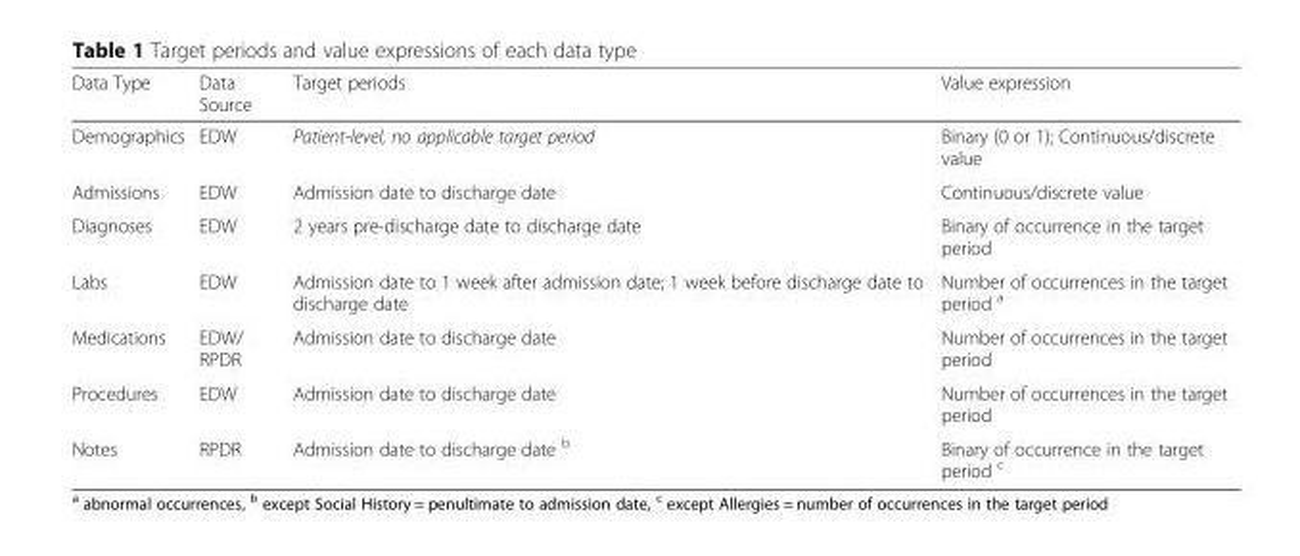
<table><thead><tr><td>Data Type</td><td>Data Source</td><td>Target periods</td><td>Value expression</td></tr></thead><tbody><tr><td>Demographics</td><td>EDW</td><td>Patient-level, no applicable target period</td><td>Binary (0 or 1); Continuous/discrete value</td></tr><tr><td>Admissions</td><td>EDW</td><td>Admission date to discharge date</td><td>Continuous/discrete value</td></tr><tr><td>Diagnoses</td><td>EDW</td><td>2 years pre-discharge date to discharge date</td><td>Binary of occurrence in the target period</td></tr><tr><td>Labs</td><td>EDW</td><td>Admission date to 1 week after admission date; 1 week before discharge date to discharge date</td><td>Number of occurrences in the target period <sup>a</sup></td></tr><tr><td>Medications</td><td>EDW/ RPDR</td><td>Admission date to discharge date</td><td>Number of occurrences in the target period</td></tr><tr><td>Procedures</td><td>EDW</td><td>Admission date to discharge date</td><td>Number of occurrences in the target period</td></tr><tr><td>Notes</td><td>RPDR</td><td>Admission date to discharge date <sup>b</sup></td><td>Binary of occurrence in the target period <sup>c</sup></td></tr></tbody></table>